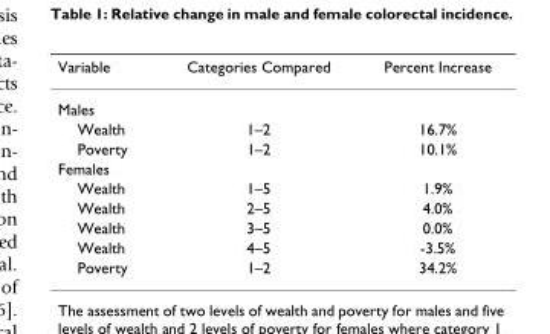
<table><thead><tr><td>Variable</td><td>Categories Compared</td><td>Percent Increase</td></tr></thead><tbody><tr><td colspan="3">Males</td></tr><tr><td>Wealth</td><td>1–2</td><td>16.7%</td></tr><tr><td>Poverty</td><td>1–2</td><td>10.1%</td></tr><tr><td colspan="3">Females</td></tr><tr><td>Wealth</td><td>1–5</td><td>1.9%</td></tr><tr><td>Wealth</td><td>2–5</td><td>4.0%</td></tr><tr><td>Wealth</td><td>3–5</td><td>0.0%</td></tr><tr><td>Wealth</td><td>4–5</td><td>-3.5%</td></tr><tr><td>Poverty</td><td>1–2</td><td>34.2%</td></tr></tbody></table>